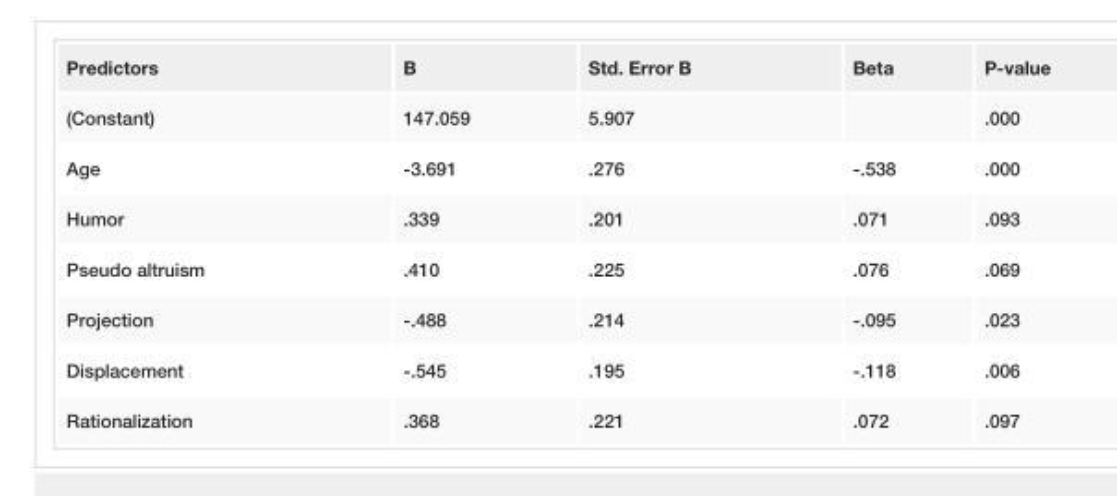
<table><tbody><tr><td>Predictors</td><td>B</td><td>Std. Error B</td><td>Beta</td><td>P-value</td></tr><tr><td>(Constant)</td><td>147.059</td><td>5.907</td><td></td><td>.000</td></tr><tr><td>Age</td><td>-3.691</td><td>.276</td><td>-.538</td><td>.000</td></tr><tr><td>Humor</td><td>.339</td><td>.201</td><td>.071</td><td>.093</td></tr><tr><td>Pseudo altruism</td><td>.410</td><td>.225</td><td>.076</td><td>.069</td></tr><tr><td>Projection</td><td>-.488</td><td>.214</td><td>-.095</td><td>.023</td></tr><tr><td>Displacement</td><td>-.545</td><td>.195</td><td>-.118</td><td>.006</td></tr><tr><td>Rationalization</td><td>.368</td><td>.221</td><td>.072</td><td>.097</td></tr></tbody></table>